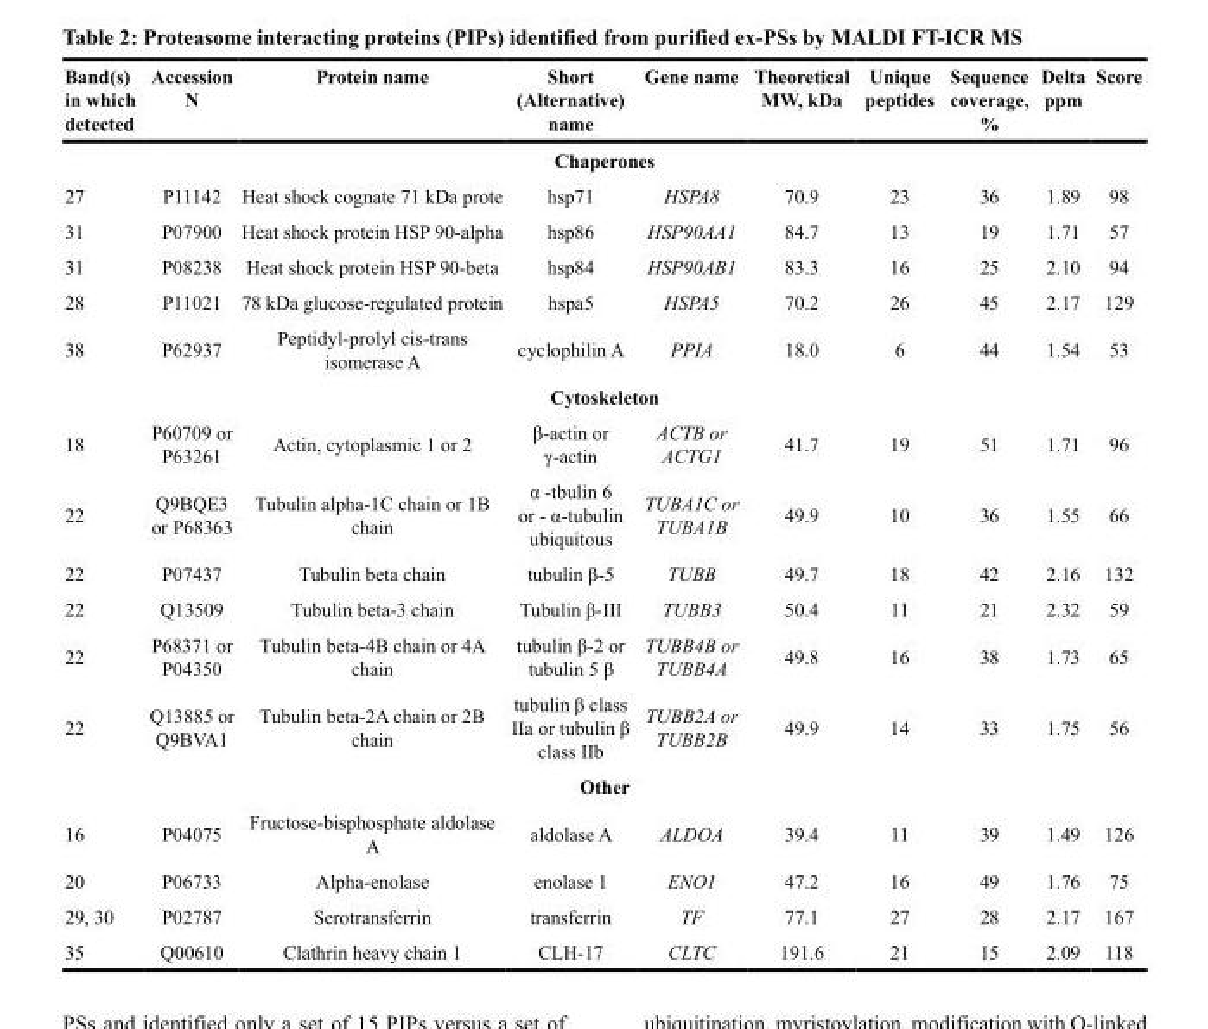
<table><thead><tr><td>Band(s) in which detected</td><td>Accession N</td><td>Protein name</td><td>Short (Alternative) name</td><td>Gene name</td><td>Theoretical MW, kDa</td><td>Unique peptides</td><td>Sequence coverage, %</td><td>Delta ppm</td><td>Score</td></tr></thead><tbody><tr><td colspan="10">Chaperones</td></tr><tr><td>27</td><td>P11142</td><td>Heat shock cognate 71 kDa prote</td><td>hsp71</td><td>HSPA8</td><td>70.9</td><td>23</td><td>36</td><td>1.89</td><td>98</td></tr><tr><td>31</td><td>P07900</td><td>Heat shock protein HSP 90-alpha</td><td>hsp86</td><td>HSP90AA1</td><td>84.7</td><td>13</td><td>19</td><td>1.71</td><td>57</td></tr><tr><td>31</td><td>P08238</td><td>Heat shock protein HSP 90-beta</td><td>hsp84</td><td>HSP90AB1</td><td>83.3</td><td>16</td><td>25</td><td>2.10</td><td>94</td></tr><tr><td>28</td><td>P11021</td><td>78 kDa glucose-regulated protein</td><td>hspa5</td><td>HSPA5</td><td>70.2</td><td>26</td><td>45</td><td>2.17</td><td>129</td></tr><tr><td>38</td><td>P62937</td><td>Peptidyl-prolyl cis-trans isomerase A</td><td>cyclophilin A</td><td>PPIA</td><td>18.0</td><td>6</td><td>44</td><td>1.54</td><td>53</td></tr><tr><td colspan="10">Cytoskeleton</td></tr><tr><td>18</td><td>P60709 or P63261</td><td>Actin, cytoplasmic 1 or 2</td><td>β-actin or γ-actin</td><td>ACTB or ACTG1</td><td>41.7</td><td>19</td><td>51</td><td>1.71</td><td>96</td></tr><tr><td>22</td><td>Q9BQE3 or P68363</td><td>Tubulin alpha-1C chain or 1B chain</td><td>α -tbulin 6 or - α-tubulin ubiquitous</td><td>TUBA1C or TUBA1B</td><td>49.9</td><td>10</td><td>36</td><td>1.55</td><td>66</td></tr><tr><td>22</td><td>P07437</td><td>Tubulin beta chain</td><td>tubulin β-5</td><td>TUBB</td><td>49.7</td><td>18</td><td>42</td><td>2.16</td><td>132</td></tr><tr><td>22</td><td>Q13509</td><td>Tubulin beta-3 chain</td><td>Tubulin β-III</td><td>TUBB3</td><td>50.4</td><td>11</td><td>21</td><td>2.32</td><td>59</td></tr><tr><td>22</td><td>P68371 or P04350</td><td>Tubulin beta-4B chain or 4A chain</td><td>tubulin β-2 or tubulin 5 β</td><td>TUBB4B or TUBB4A</td><td>49.8</td><td>16</td><td>38</td><td>1.73</td><td>65</td></tr><tr><td>22</td><td>Q13885 or Q9BVA1</td><td>Tubulin beta-2A chain or 2B chain</td><td>tubulin β class IIa or tubulin β class IIb</td><td>TUBB2A or TUBB2B</td><td>49.9</td><td>14</td><td>33</td><td>1.75</td><td>56</td></tr><tr><td colspan="10">Other</td></tr><tr><td>16</td><td>P04075</td><td>Fructose-bisphosphate aldolase A</td><td>aldolase A</td><td>ALDOA</td><td>39.4</td><td>11</td><td>39</td><td>1.49</td><td>126</td></tr><tr><td>20</td><td>P06733</td><td>Alpha-enolase</td><td>enolase 1</td><td>ENO1</td><td>47.2</td><td>16</td><td>49</td><td>1.76</td><td>75</td></tr><tr><td>29, 30</td><td>P02787</td><td>Serotransferrin</td><td>transferrin</td><td>TF</td><td>77.1</td><td>27</td><td>28</td><td>2.17</td><td>167</td></tr><tr><td>35</td><td>Q00610</td><td>Clathrin heavy chain 1</td><td>CLH-17</td><td>CLTC</td><td>191.6</td><td>21</td><td>15</td><td>2.09</td><td>118</td></tr></tbody></table>